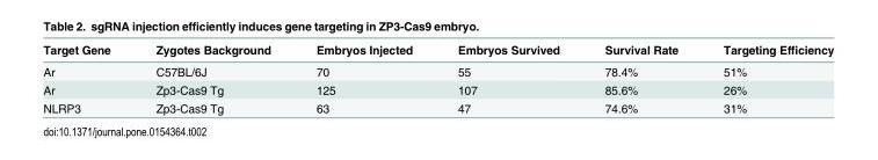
<table><thead><tr><td>Target Gene</td><td>Zygotes Background</td><td>Embryos Injected</td><td>Embryos Survived</td><td>Survival Rate</td><td>Targeting Efficiency</td></tr></thead><tbody><tr><td>Ar</td><td>C57BL/6J</td><td>70</td><td>55</td><td>78.4%</td><td>51%</td></tr><tr><td>Ar</td><td>Zp3-Cas9 Tg</td><td>125</td><td>107</td><td>85.6%</td><td>26%</td></tr><tr><td>NLRP3</td><td>Zp3-Cas9 Tg</td><td>63</td><td>47</td><td>74.6%</td><td>31%</td></tr></tbody></table>